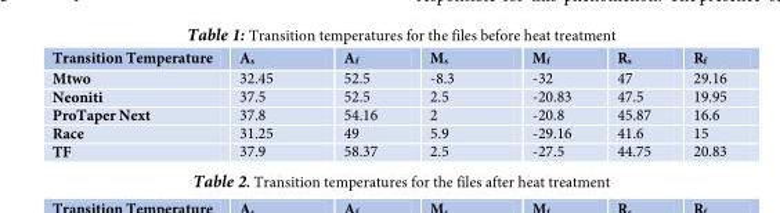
<table><thead><tr><td>Transition Temperature</td><td>A<sub>s</sub></td><td>A<sub>f</sub></td><td>M<sub>s</sub></td><td>M<sub>f</sub></td><td>R<sub>s</sub></td><td>R<sub>f</sub></td></tr></thead><tbody><tr><td>Mtwo</td><td>32.45</td><td>52.5</td><td>-8.3</td><td>-32</td><td>47</td><td>29.16</td></tr><tr><td>Neoniti</td><td>37.5</td><td>52.5</td><td>2.5</td><td>-20.83</td><td>47.5</td><td>19.95</td></tr><tr><td>ProTaper Next</td><td>37.8</td><td>54.16</td><td>2</td><td>-20.8</td><td>45.87</td><td>16.6</td></tr><tr><td>Race</td><td>31.25</td><td>49</td><td>5.9</td><td>-29.16</td><td>41.6</td><td>15</td></tr><tr><td>TF</td><td>37.9</td><td>58.37</td><td>2.5</td><td>-27.5</td><td>44.75</td><td>20.83</td></tr></tbody></table>